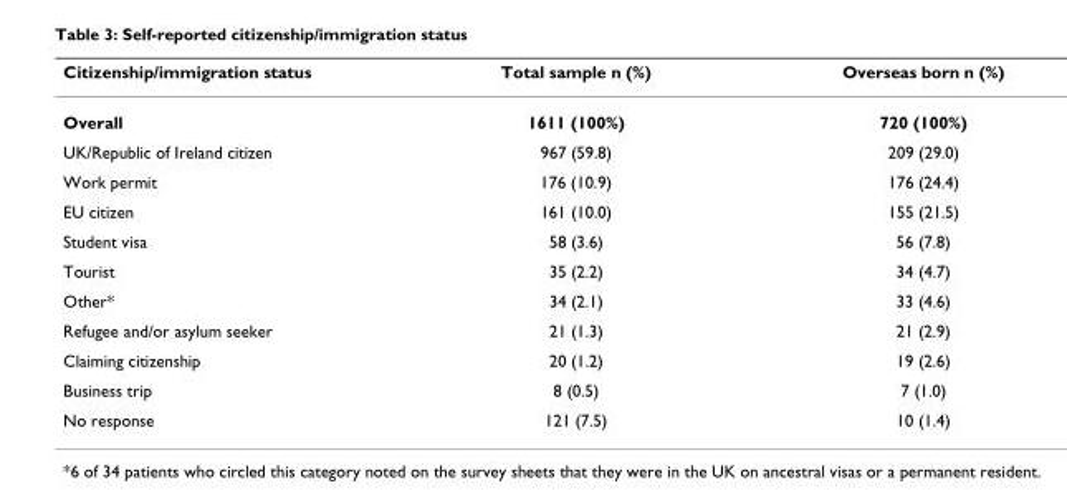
<table><thead><tr><td>Citizenship/immigration status</td><td>Total sample n (%)</td><td>Overseas born n (%)</td></tr></thead><tbody><tr><td>Overall</td><td>1611 (100%)</td><td>720 (100%)</td></tr><tr><td>UK/Republic of Ireland citizen</td><td>967 (59.8)</td><td>209 (29.0)</td></tr><tr><td>Work permit</td><td>176 (10.9)</td><td>176 (24.4)</td></tr><tr><td>EU citizen</td><td>161 (10.0)</td><td>155 (21.5)</td></tr><tr><td>Student visa</td><td>58 (3.6)</td><td>56 (7.8)</td></tr><tr><td>Tourist</td><td>35 (2.2)</td><td>34 (4.7)</td></tr><tr><td>Other*</td><td>34 (2.1)</td><td>33 (4.6)</td></tr><tr><td>Refugee and/or asylum seeker</td><td>21 (1.3)</td><td>21 (2.9)</td></tr><tr><td>Claiming citizenship</td><td>20 (1.2)</td><td>19 (2.6)</td></tr><tr><td>Business trip</td><td>8 (0.5)</td><td>7 (1.0)</td></tr><tr><td>No response</td><td>121 (7.5)</td><td>10 (1.4)</td></tr></tbody></table>